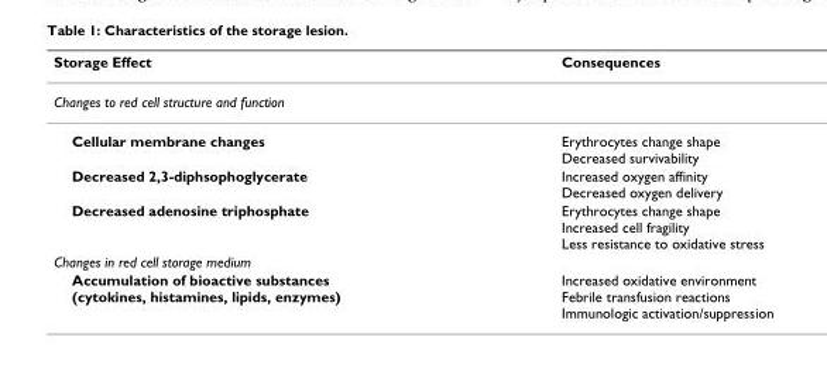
<table><thead><tr><td>Storage Effect</td><td>Consequences</td></tr></thead><tbody><tr><td colspan="2">Changes to red cell structure and function</td></tr><tr><td>Cellular membrane changes</td><td>Erythrocytes change shape Decreased survivability</td></tr><tr><td>Decreased 2,3-diphsophoglycerate</td><td>Increased oxygen affinity Decreased oxygen delivery</td></tr><tr><td>Decreased adenosine triphosphate</td><td>Erythrocytes change shape Increased cell fragility Less resistance to oxidative stress</td></tr><tr><td colspan="2">Changes in red cell storage medium</td></tr><tr><td>Accumulation of bioactive substances (cytokines, histamines, lipids, enzymes)</td><td>Increased oxidative environment Febrile transfusion reactions Immunologic activation/suppression</td></tr></tbody></table>